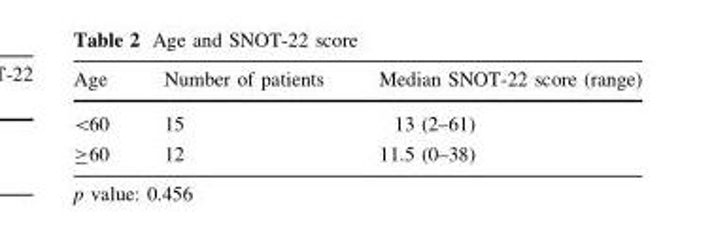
<table><thead><tr><td>Age</td><td>Number of patients</td><td>Median SNOT-22 score (range)</td></tr></thead><tbody><tr><td>&lt;60</td><td>15</td><td>13 (2–61)</td></tr><tr><td>≥60</td><td>12</td><td>11.5 (0–38)</td></tr></tbody></table>